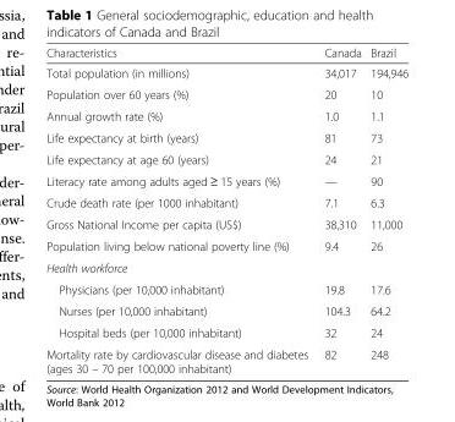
<table><thead><tr><td>Characteristics</td><td>Canada</td><td>Brazil</td></tr></thead><tbody><tr><td>Total population (in millions)</td><td>34,017</td><td>194,946</td></tr><tr><td>Population over 60 years (%)</td><td>20</td><td>10</td></tr><tr><td>Annual growth rate (%)</td><td>1.0</td><td>1.1</td></tr><tr><td>Life expectancy at birth (years)</td><td>81</td><td>73</td></tr><tr><td>Life expectancy at age 60 (years)</td><td>24</td><td>21</td></tr><tr><td>Literacy rate among adults aged ≥ 15 years (%)</td><td>—</td><td>90</td></tr><tr><td>Crude death rate (per 1000 inhabitant)</td><td>7.1</td><td>6.3</td></tr><tr><td>Gross National Income per capita (US$)</td><td>38,310</td><td>11,000</td></tr><tr><td>Population living below national poverty line (%)</td><td>9.4</td><td>26</td></tr><tr><td colspan="3">Health workforce</td></tr><tr><td>Physicians (per 10,000 inhabitant)</td><td>19.8</td><td>17.6</td></tr><tr><td>Nurses (per 10,000 inhabitant)</td><td>104.3</td><td>64.2</td></tr><tr><td>Hospital beds (per 10,000 inhabitant)</td><td>32</td><td>24</td></tr><tr><td>Mortality rate by cardiovascular disease and diabetes (ages 30 – 70 per 100,000 inhabitant)</td><td>82</td><td>248</td></tr></tbody></table>